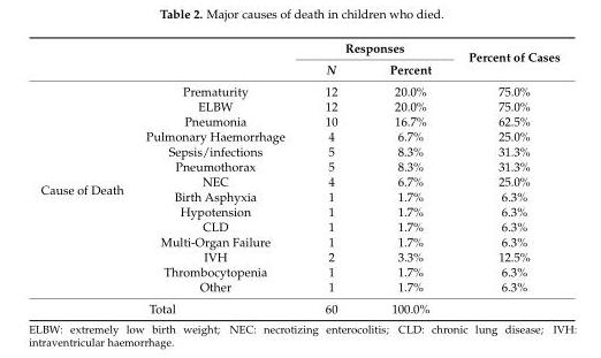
<table><thead><tr><td rowspan="2"></td><td rowspan="2"></td><td colspan="2">Responses</td><td rowspan="2">Percent of Cases</td></tr><tr><td>N</td><td>Percent</td></tr></thead><tbody><tr><td rowspan="14">Cause of Death</td><td>Prematurity</td><td>12</td><td>20.0%</td><td>75.0%</td></tr><tr><td>ELBW</td><td>12</td><td>20.0%</td><td>75.0%</td></tr><tr><td>Pneumonia</td><td>10</td><td>16.7%</td><td>62.5%</td></tr><tr><td>Pulmonary Haemorrhage</td><td>4</td><td>6.7%</td><td>25.0%</td></tr><tr><td>Sepsis/infections</td><td>5</td><td>8.3%</td><td>31.3%</td></tr><tr><td>Pneumothorax</td><td>5</td><td>8.3%</td><td>31.3%</td></tr><tr><td>NEC</td><td>4</td><td>6.7%</td><td>25.0%</td></tr><tr><td>Birth Asphyxia</td><td>1</td><td>1.7%</td><td>6.3%</td></tr><tr><td>Hypotension</td><td>1</td><td>1.7%</td><td>6.3%</td></tr><tr><td>CLD</td><td>1</td><td>1.7%</td><td>6.3%</td></tr><tr><td>Multi-Organ Failure</td><td>1</td><td>1.7%</td><td>6.3%</td></tr><tr><td>IVH</td><td>2</td><td>3.3%</td><td>12.5%</td></tr><tr><td>Thrombocytopenia</td><td>1</td><td>1.7%</td><td>6.3%</td></tr><tr><td>Other</td><td>1</td><td>1.7%</td><td>6.3%</td></tr><tr><td colspan="2">Total</td><td>60</td><td>100.0%</td><td></td></tr></tbody></table>